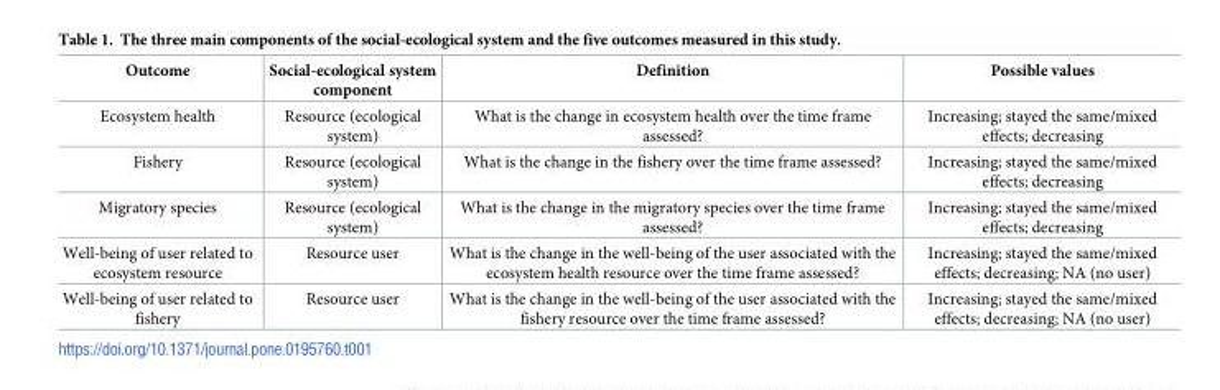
<table><thead><tr><td>Outcome</td><td>Social-ecological system component</td><td>Definition</td><td>Possible values</td></tr></thead><tbody><tr><td>Ecosystem health</td><td>Resource (ecological system)</td><td>What is the change in ecosystem health over the time frame assessed?</td><td>Increasing; stayed the same/mixed effects; decreasing</td></tr><tr><td>Fishery</td><td>Resource (ecological system)</td><td>What is the change in the fishery over the time frame assessed?</td><td>Increasing; stayed the same/mixed effects; decreasing</td></tr><tr><td>Migratory species</td><td>Resource (ecological system)</td><td>What is the change in the migratory species over the time frame assessed?</td><td>Increasing; stayed the same/mixed effects; decreasing</td></tr><tr><td>Well-being of user related to ecosystem resource</td><td>Resource user</td><td>What is the change in the well-being of the user associated with the ecosystem health resource over the time frame assessed?</td><td>Increasing; stayed the same/mixed effects; decreasing; NA (no user)</td></tr><tr><td>Well-being of user related to fishery</td><td>Resource user</td><td>What is the change in the well-being of the user associated with the fishery resource over the time frame assessed?</td><td>Increasing; stayed the same/mixed effects; decreasing; NA (no user)</td></tr></tbody></table>